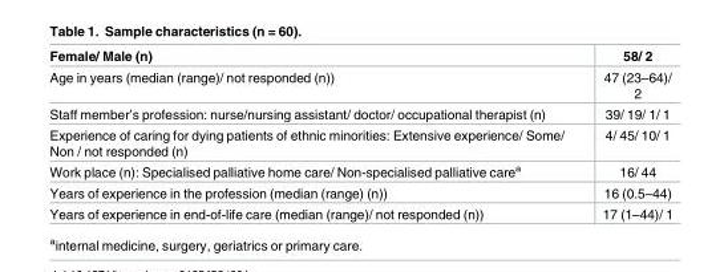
<table><thead><tr><td>Female/ Male (n)</td><td>58/ 2</td></tr></thead><tbody><tr><td>Age in years (median (range)/ not responded (n))</td><td>47 (23–64)/ 2</td></tr><tr><td>Staff member’s profession: nurse/nursing assistant/ doctor/ occupational therapist (n)</td><td>39/ 19/ 1/ 1</td></tr><tr><td>Experience of caring for dying patients of ethnic minorities: Extensive experience/ Some/ Non / not responded (n)</td><td>4/ 45/ 10/ 1</td></tr><tr><td>Work place (n): Specialised palliative home care/ Non-specialised palliative care<sup>a</sup></td><td>16/ 44</td></tr><tr><td>Years of experience in the profession (median (range) (n))</td><td>16 (0.5–44)</td></tr><tr><td>Years of experience in end-of-life care (median (range)/ not responded (n))</td><td>17 (1–44)/ 1</td></tr></tbody></table>